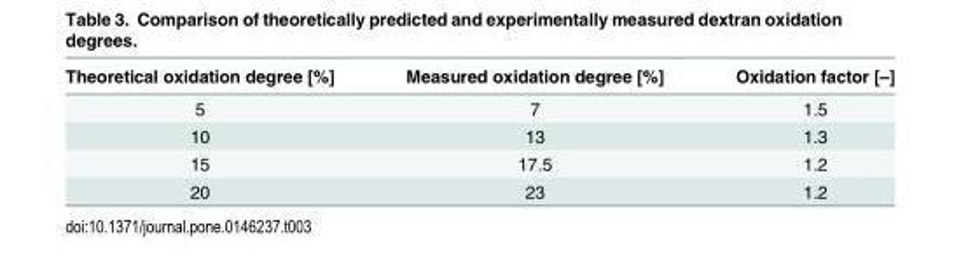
<table><thead><tr><td>Theoretical oxidation degree [%]</td><td>Measured oxidation degree [%]</td><td>Oxidation factor [–]</td></tr></thead><tbody><tr><td>5</td><td>7</td><td>1.5</td></tr><tr><td>10</td><td>13</td><td>1.3</td></tr><tr><td>15</td><td>17.5</td><td>1.2</td></tr><tr><td>20</td><td>23</td><td>1.2</td></tr></tbody></table>